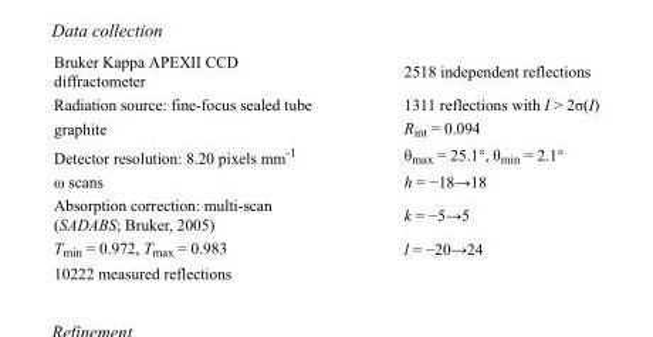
<table><tbody><tr><td>Bruker Kappa APEXII CCD diffractometer</td><td>2518 independent reflections</td></tr><tr><td>Radiation source: fine-focus sealed tube</td><td>1311 reflections with I &gt; 2σ(I)</td></tr><tr><td>graphite</td><td>R<sub>int</sub> = 0.094</td></tr><tr><td>Detector resolution: 8.20 pixels mm<sup>-1</sup></td><td>θ<sub>max</sub> = 25.1°, θ<sub>min</sub> = 2.1°</td></tr><tr><td>ω scans</td><td>h = −18→18</td></tr><tr><td>Absorption correction: multi-scan (SADABS; Bruker, 2005)</td><td>k = −5→5</td></tr><tr><td>T<sub>min</sub> = 0.972, T<sub>max</sub> = 0.983</td><td>l = −20→24</td></tr><tr><td>10222 measured reflections</td><td></td></tr></tbody></table>